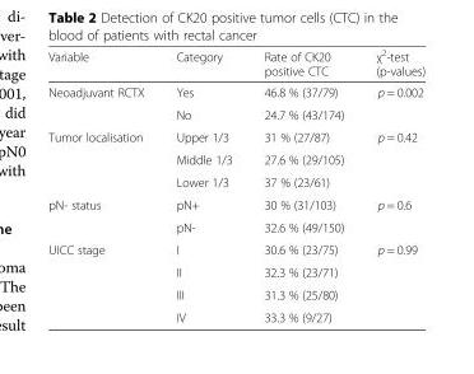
<table><thead><tr><td>Variable</td><td>Category</td><td>Rate of CK20 positive CTC</td><td>χ<sup>2</sup>-test (p-values)</td></tr></thead><tbody><tr><td rowspan="2">Neoadjuvant RCTX</td><td>Yes</td><td>46.8 % (37/79)</td><td>p = 0.002</td></tr><tr><td>No</td><td>24.7 % (43/174)</td><td></td></tr><tr><td rowspan="3">Tumor localisation</td><td>Upper 1/3</td><td>31 % (27/87)</td><td>p = 0.42</td></tr><tr><td>Middle 1/3</td><td>27.6 % (29/105)</td><td></td></tr><tr><td>Lower 1/3</td><td>37 % (23/61)</td><td></td></tr><tr><td rowspan="2">pN- status</td><td>pN+</td><td>30 % (31/103)</td><td>p = 0.6</td></tr><tr><td>pN-</td><td>32.6 % (49/150)</td><td></td></tr><tr><td rowspan="4">UICC stage</td><td>I</td><td>30.6 % (23/75)</td><td>p = 0.99</td></tr><tr><td>II</td><td>32.3 % (23/71)</td><td></td></tr><tr><td>III</td><td>31.3 % (25/80)</td><td></td></tr><tr><td>IV</td><td>33.3 % (9/27)</td><td></td></tr></tbody></table>